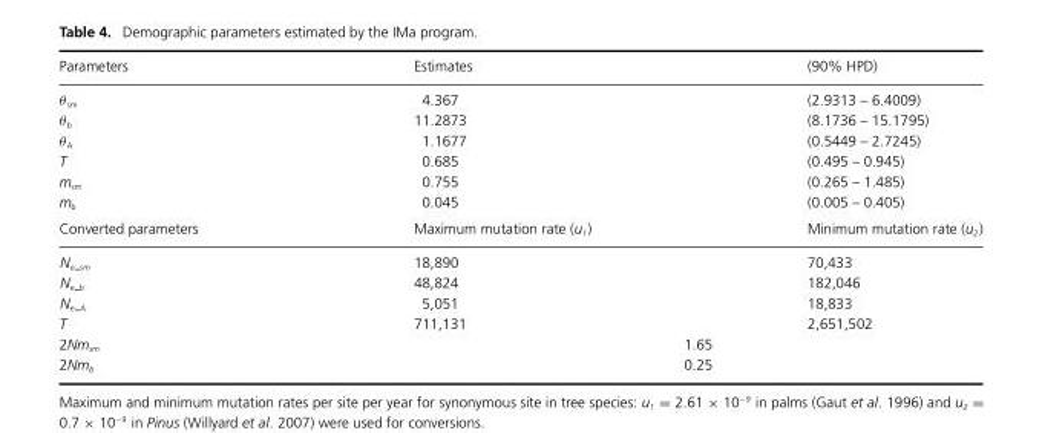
<table><thead><tr><td>Parameters</td><td>Estimates</td><td></td><td>(90% HPD)</td></tr></thead><tbody><tr><td>θ <sub>sm</sub></td><td>4.367</td><td></td><td>(2.9313 – 6.4009)</td></tr><tr><td>θ <sub>b</sub></td><td>11.2873</td><td></td><td>(8.1736 – 15.1795)</td></tr><tr><td>θ <sub>A</sub></td><td>1.1677</td><td></td><td>(0.5449 – 2.7245)</td></tr><tr><td>T</td><td>0.685</td><td></td><td>(0.495 – 0.945)</td></tr><tr><td>m<sub>sm</sub></td><td>0.755</td><td></td><td>(0.265 – 1.485)</td></tr><tr><td>m<sub>b</sub></td><td>0.045</td><td></td><td>(0.005 – 0.405)</td></tr><tr><td>Converted parameters</td><td>Maximum mutation rate (u<sub>1</sub>)</td><td></td><td>Minimum mutation rate (u<sub>2</sub>)</td></tr><tr><td>Ne sm</td><td>18,890</td><td></td><td>70,433</td></tr><tr><td>Ne b</td><td>48,824</td><td></td><td>182,046</td></tr><tr><td>Ne A</td><td>5,051</td><td></td><td>18,833</td></tr><tr><td>T</td><td>711,131</td><td></td><td>2,651,502</td></tr><tr><td>2Nm<sub>sm</sub></td><td></td><td>1.65</td><td></td></tr><tr><td>2Nm<sub>b</sub></td><td></td><td>0.25</td><td></td></tr></tbody></table>